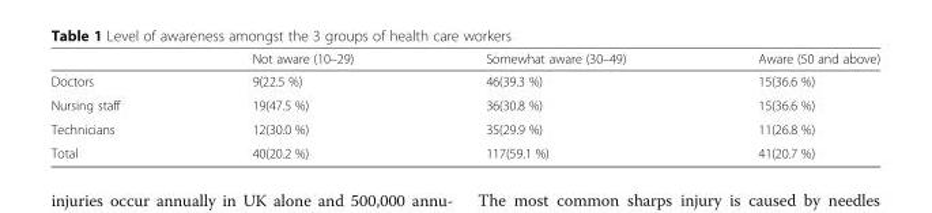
<table><thead><tr><td></td><td>Not aware (10–29)</td><td>Somewhat aware (30–49)</td><td>Aware (50 and above)</td></tr></thead><tbody><tr><td>Doctors</td><td>9(22.5 %)</td><td>46(39.3 %)</td><td>15(36.6 %)</td></tr><tr><td>Nursing staff</td><td>19(47.5 %)</td><td>36(30.8 %)</td><td>15(36.6 %)</td></tr><tr><td>Technicians</td><td>12(30.0 %)</td><td>35(29.9 %)</td><td>11(26.8 %)</td></tr><tr><td>Total</td><td>40(20.2 %)</td><td>117(59.1 %)</td><td>41(20.7 %)</td></tr></tbody></table>